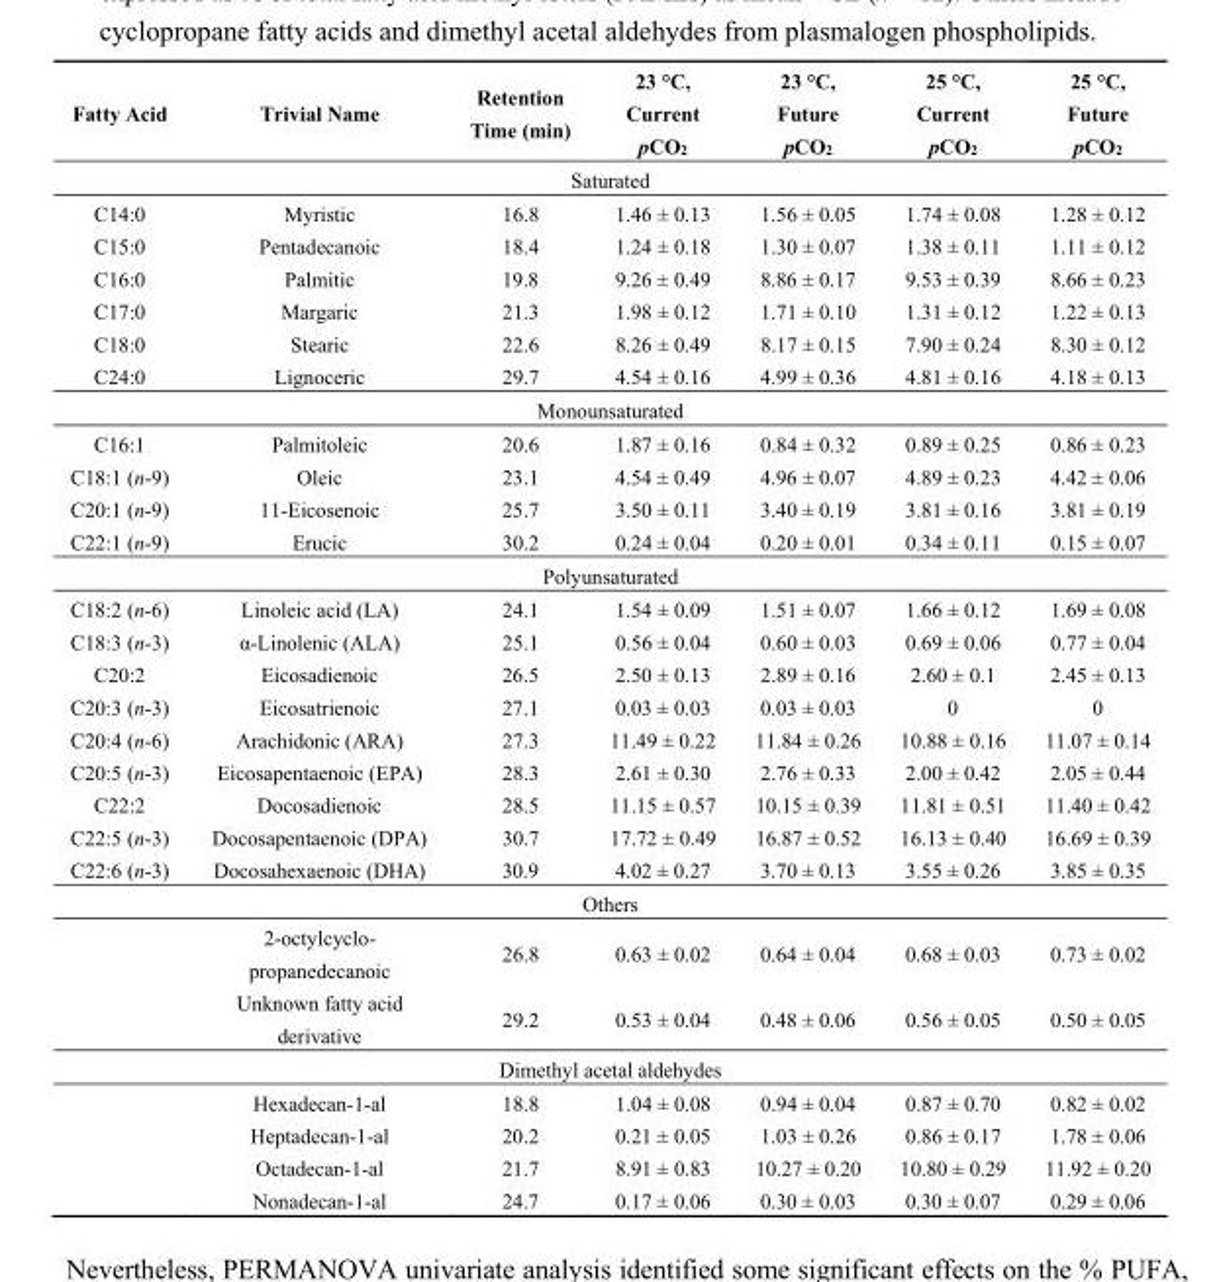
<table><thead><tr><td>Fatty Acid</td><td>Trivial Name</td><td>Retention Time (min)</td><td>23 °C, Current pCO<sub>2</sub></td><td>23 °C, Future pCO<sub>2</sub></td><td>25 °C, Current pCO<sub>2</sub></td><td>25 °C, Future pCO<sub>2</sub></td></tr></thead><tbody><tr><td colspan="7">Saturated</td></tr><tr><td>C14:0</td><td>Myristic</td><td>16.8</td><td>1.46 ± 0.13</td><td>1.56 ± 0.05</td><td>1.74 ± 0.08</td><td>1.28 ± 0.12</td></tr><tr><td>C15:0</td><td>Pentadecanoic</td><td>18.4</td><td>1.24 ± 0.18</td><td>1.30 ± 0.07</td><td>1.38 ± 0.11</td><td>1.11 ± 0.12</td></tr><tr><td>C16:0</td><td>Palmitic</td><td>19.8</td><td>9.26 ± 0.49</td><td>8.86 ± 0.17</td><td>9.53 ± 0.39</td><td>8.66 ± 0.23</td></tr><tr><td>C17:0</td><td>Margaric</td><td>21.3</td><td>1.98 ± 0.12</td><td>1.71 ± 0.10</td><td>1.31 ± 0.12</td><td>1.22 ± 0.13</td></tr><tr><td>C18:0</td><td>Stearic</td><td>22.6</td><td>8.26 ± 0.49</td><td>8.17 ± 0.15</td><td>7.90 ± 0.24</td><td>8.30 ± 0.12</td></tr><tr><td>C24:0</td><td>Lignoceric</td><td>29.7</td><td>4.54 ± 0.16</td><td>4.99 ± 0.36</td><td>4.81 ± 0.16</td><td>4.18 ± 0.13</td></tr><tr><td colspan="7">Monounsaturated</td></tr><tr><td>C16:1</td><td>Palmitoleic</td><td>20.6</td><td>1.87 ± 0.16</td><td>0.84 ± 0.32</td><td>0.89 ± 0.25</td><td>0.86 ± 0.23</td></tr><tr><td>C18:1 (n-9)</td><td>Oleic</td><td>23.1</td><td>4.54 ± 0.49</td><td>4.96 ± 0.07</td><td>4.89 ± 0.23</td><td>4.42 ± 0.06</td></tr><tr><td>C20:1 (n-9)</td><td>11-Eicosenoic</td><td>25.7</td><td>3.50 ± 0.11</td><td>3.40 ± 0.19</td><td>3.81 ± 0.16</td><td>3.81 ± 0.19</td></tr><tr><td>C22:1 (n-9)</td><td>Erucic</td><td>30.2</td><td>0.24 ± 0.04</td><td>0.20 ± 0.01</td><td>0.34 ± 0.11</td><td>0.15 ± 0.07</td></tr><tr><td colspan="7">Polyunsaturated</td></tr><tr><td>C18:2 (n-6)</td><td>Linoleic acid (LA)</td><td>24.1</td><td>1.54 ± 0.09</td><td>1.51 ± 0.07</td><td>1.66 ± 0.12</td><td>1.69 ± 0.08</td></tr><tr><td>C18:3 (n-3)</td><td>α-Linolenic (ALA)</td><td>25.1</td><td>0.56 ± 0.04</td><td>0.60 ± 0.03</td><td>0.69 ± 0.06</td><td>0.77 ± 0.04</td></tr><tr><td>C20:2</td><td>Eicosadienoic</td><td>26.5</td><td>2.50 ± 0.13</td><td>2.89 ± 0.16</td><td>2.60 ± 0.1</td><td>2.45 ± 0.13</td></tr><tr><td>C20:3 (n-3)</td><td>Eicosatrienoic</td><td>27.1</td><td>0.03 ± 0.03</td><td>0.03 ± 0.03</td><td>0</td><td>0</td></tr><tr><td>C20:4 (n-6)</td><td>Arachidonic (ARA)</td><td>27.3</td><td>11.49 ± 0.22</td><td>11.84 ± 0.26</td><td>10.88 ± 0.16</td><td>11.07 ± 0.14</td></tr><tr><td>C20:5 (n-3)</td><td>Eicosapentaenoic (EPA)</td><td>28.3</td><td>2.61 ± 0.30</td><td>2.76 ± 0.33</td><td>2.00 ± 0.42</td><td>2.05 ± 0.44</td></tr><tr><td>C22:2</td><td>Docosadienoic</td><td>28.5</td><td>11.15 ± 0.57</td><td>10.15 ± 0.39</td><td>11.81 ± 0.51</td><td>11.40 ± 0.42</td></tr><tr><td>C22:5 (n-3)</td><td>Docosapentaenoic (DPA)</td><td>30.7</td><td>17.72 ± 0.49</td><td>16.87 ± 0.52</td><td>16.13 ± 0.40</td><td>16.69 ± 0.39</td></tr><tr><td>C22:6 (n-3)</td><td>Docosahexaenoic (DHA)</td><td>30.9</td><td>4.02 ± 0.27</td><td>3.70 ± 0.13</td><td>3.55 ± 0.26</td><td>3.85 ± 0.35</td></tr><tr><td colspan="7">Others</td></tr><tr><td></td><td>2-octylcyclo- propanedecanoic</td><td>26.8</td><td>0.63 ± 0.02</td><td>0.64 ± 0.04</td><td>0.68 ± 0.03</td><td>0.73 ± 0.02</td></tr><tr><td></td><td>Unknown fatty acid derivative</td><td>29.2</td><td>0.53 ± 0.04</td><td>0.48 ± 0.06</td><td>0.56 ± 0.05</td><td>0.50 ± 0.05</td></tr><tr><td colspan="7">Dimethyl acetal aldehydes</td></tr><tr><td></td><td>Hexadecan-1-al</td><td>18.8</td><td>1.04 ± 0.08</td><td>0.94 ± 0.04</td><td>0.87 ± 0.70</td><td>0.82 ± 0.02</td></tr><tr><td></td><td>Heptadecan-1-al</td><td>20.2</td><td>0.21 ± 0.05</td><td>1.03 ± 0.26</td><td>0.86 ± 0.17</td><td>1.78 ± 0.06</td></tr><tr><td></td><td>Octadecan-1-al</td><td>21.7</td><td>8.91 ± 0.83</td><td>10.27 ± 0.20</td><td>10.80 ± 0.29</td><td>11.92 ± 0.20</td></tr><tr><td></td><td>Nonadecan-1-al</td><td>24.7</td><td>0.17 ± 0.06</td><td>0.30 ± 0.03</td><td>0.30 ± 0.07</td><td>0.29 ± 0.06</td></tr></tbody></table>